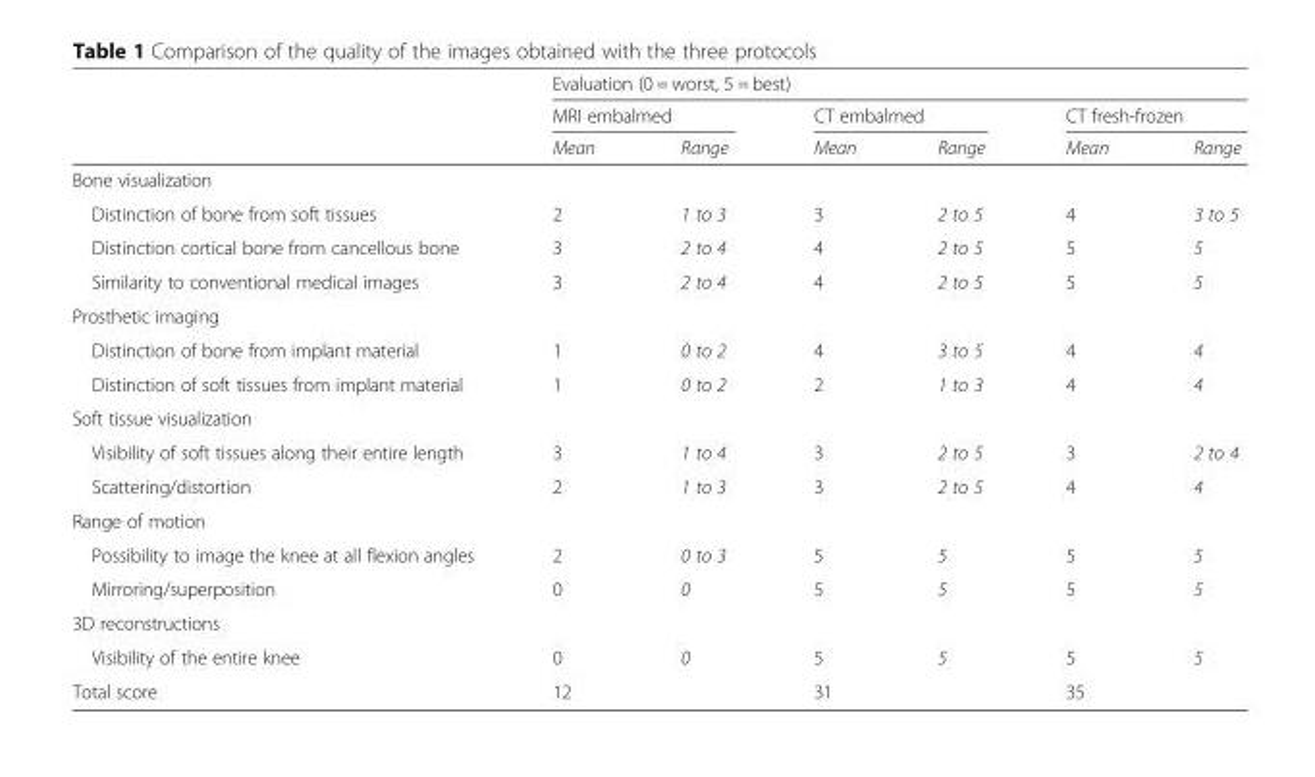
<table><thead><tr><td rowspan="3"></td><td colspan="6">Evaluation (0 = worst, 5 = best)</td></tr><tr><td colspan="2">MRI embalmed</td><td colspan="2">CT embalmed</td><td colspan="2">CT fresh-frozen</td></tr><tr><td>Mean</td><td>Range</td><td>Mean</td><td>Range</td><td>Mean</td><td>Range</td></tr></thead><tbody><tr><td colspan="7">Bone visualization</td></tr><tr><td>Distinction of bone from soft tissues</td><td>2</td><td>1 to 3</td><td>3</td><td>2 to 5</td><td>4</td><td>3 to 5</td></tr><tr><td>Distinction cortical bone from cancellous bone</td><td>3</td><td>2 to 4</td><td>4</td><td>2 to 5</td><td>5</td><td>5</td></tr><tr><td>Similarity to conventional medical images</td><td>3</td><td>2 to 4</td><td>4</td><td>2 to 5</td><td>5</td><td>5</td></tr><tr><td colspan="7">Prosthetic imaging</td></tr><tr><td>Distinction of bone from implant material</td><td>1</td><td>0 to 2</td><td>4</td><td>3 to 5</td><td>4</td><td>4</td></tr><tr><td>Distinction of soft tissues from implant material</td><td>1</td><td>0 to 2</td><td>2</td><td>1 to 3</td><td>4</td><td>4</td></tr><tr><td colspan="7">Soft tissue visualization</td></tr><tr><td>Visibility of soft tissues along their entire length</td><td>3</td><td>1 to 4</td><td>3</td><td>2 to 5</td><td>3</td><td>2 to 4</td></tr><tr><td>Scattering/distortion</td><td>2</td><td>1 to 3</td><td>3</td><td>2 to 5</td><td>4</td><td>4</td></tr><tr><td colspan="7">Range of motion</td></tr><tr><td>Possibility to image the knee at all flexion angles</td><td>2</td><td>0 to 3</td><td>5</td><td>5</td><td>5</td><td>5</td></tr><tr><td>Mirroring/superposition</td><td>0</td><td>0</td><td>5</td><td>5</td><td>5</td><td>5</td></tr><tr><td colspan="7">3D reconstructions</td></tr><tr><td>Visibility of the entire knee</td><td>0</td><td>0</td><td>5</td><td>5</td><td>5</td><td>5</td></tr><tr><td>Total score</td><td>12</td><td></td><td>31</td><td></td><td>35</td><td></td></tr></tbody></table>